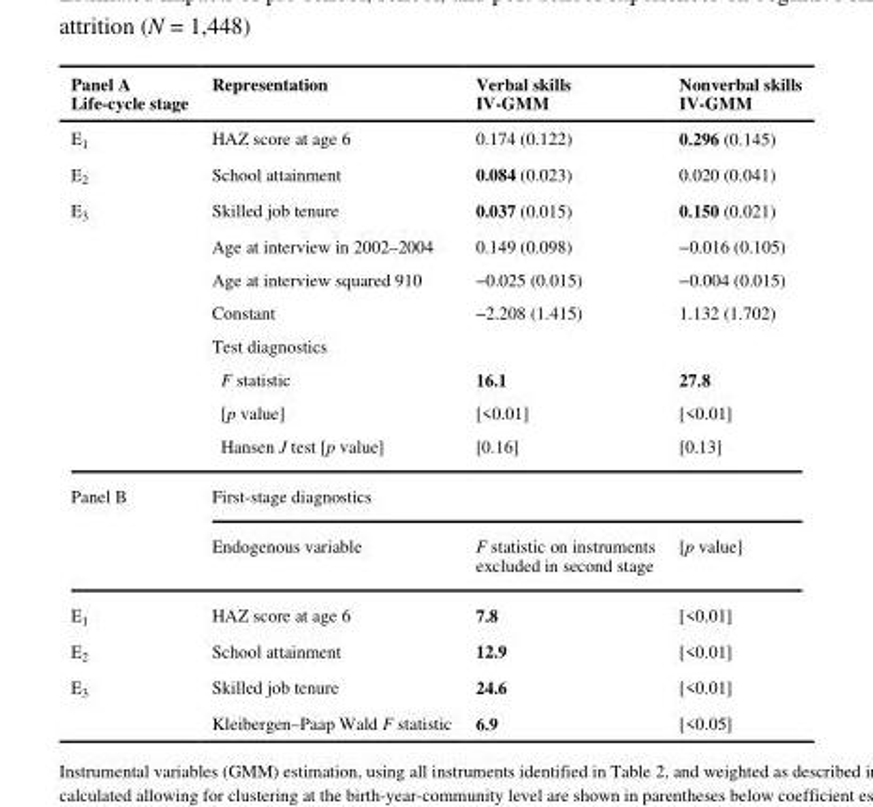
<table><thead><tr><td>Panel A Life-cycle stage</td><td>Representation</td><td>Verbal skills IV-GMM</td><td>Nonverbal skills IV-GMM</td></tr></thead><tbody><tr><td>E<sub>1</sub></td><td>HAZ score at age 6</td><td>0.174 (0.122)</td><td>0.296 (0.145)</td></tr><tr><td>E<sub>2</sub></td><td>School attainment</td><td>0.084 (0.023)</td><td>0.020 (0.041)</td></tr><tr><td rowspan="8">E<sub>3</sub></td><td>Skilled job tenure</td><td>0.037 (0.015)</td><td>0.150 (0.021)</td></tr><tr><td>Age at interview in 2002–2004</td><td>0.149 (0.098)</td><td>−0.016 (0.105)</td></tr><tr><td>Age at interview squared 910</td><td>−0.025 (0.015)</td><td>−0.004 (0.015)</td></tr><tr><td>Constant</td><td>−2.208 (1.415)</td><td>1.132 (1.702)</td></tr><tr><td>Test diagnostics</td><td></td><td></td></tr><tr><td>F statistic</td><td>16.1</td><td>27.8</td></tr><tr><td>[p value]</td><td>[&lt;0.01]</td><td>[&lt;0.01]</td></tr><tr><td>Hansen J test [p value]</td><td>[0.16]</td><td>[0.13]</td></tr><tr><td rowspan="2">Panel B</td><td>First-stage diagnostics</td><td></td><td></td></tr><tr><td>Endogenous variable</td><td>F statistic on instruments excluded in second stage</td><td>[p value]</td></tr><tr><td>E<sub>1</sub></td><td>HAZ score at age 6</td><td>7.8</td><td>[&lt;0.01]</td></tr><tr><td>E<sub>2</sub></td><td>School attainment</td><td>12.9</td><td>[&lt;0.01]</td></tr><tr><td rowspan="2">E<sub>3</sub></td><td>Skilled job tenure</td><td>24.6</td><td>[&lt;0.01]</td></tr><tr><td>Kleibergen–Paap Wald F statistic</td><td>6.9</td><td>[&lt;0.05]</td></tr></tbody></table>